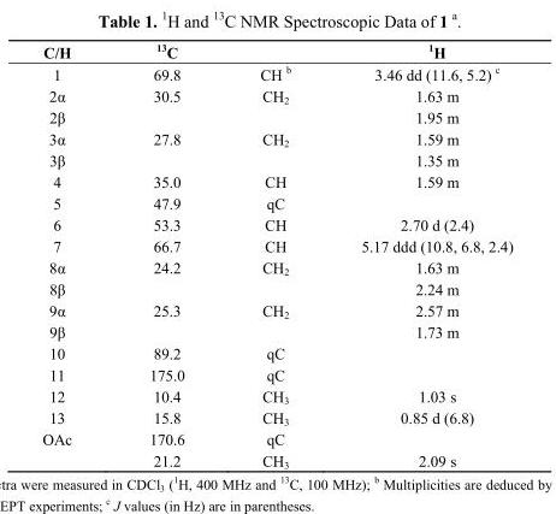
<table><thead><tr><td>C/H</td><td><sup>13</sup>C</td><td></td><td><sup>1</sup>H</td></tr></thead><tbody><tr><td>1</td><td>69.8</td><td>CH <sup>b</sup></td><td>3.46 dd (11.6, 5.2) <sup>c</sup></td></tr><tr><td>2α</td><td>30.5</td><td>CH<sub>2</sub></td><td>1.63 m</td></tr><tr><td>2β</td><td></td><td></td><td>1.95 m</td></tr><tr><td>3α</td><td>27.8</td><td>CH<sub>2</sub></td><td>1.59 m</td></tr><tr><td>3β</td><td></td><td></td><td>1.35 m</td></tr><tr><td>4</td><td>35.0</td><td>CH</td><td>1.59 m</td></tr><tr><td>5</td><td>47.9</td><td>qC</td><td></td></tr><tr><td>6</td><td>53.3</td><td>CH</td><td>2.70 d (2.4)</td></tr><tr><td>7</td><td>66.7</td><td>CH</td><td>5.17 ddd (10.8, 6.8, 2.4)</td></tr><tr><td>8α</td><td>24.2</td><td>CH<sub>2</sub></td><td>1.63 m</td></tr><tr><td>8β</td><td></td><td></td><td>2.24 m</td></tr><tr><td>9α</td><td>25.3</td><td>CH<sub>2</sub></td><td>2.57 m</td></tr><tr><td>9β</td><td></td><td></td><td>1.73 m</td></tr><tr><td>10</td><td>89.2</td><td>qC</td><td></td></tr><tr><td>11</td><td>175.0</td><td>qC</td><td></td></tr><tr><td>12</td><td>10.4</td><td>CH<sub>3</sub></td><td>1.03 s</td></tr><tr><td>13</td><td>15.8</td><td>CH<sub>3</sub></td><td>0.85 d (6.8)</td></tr><tr><td rowspan="2">OAc</td><td>170.6</td><td>qC</td><td></td></tr><tr><td>21.2</td><td>CH<sub>3</sub></td><td>2.09 s</td></tr></tbody></table>